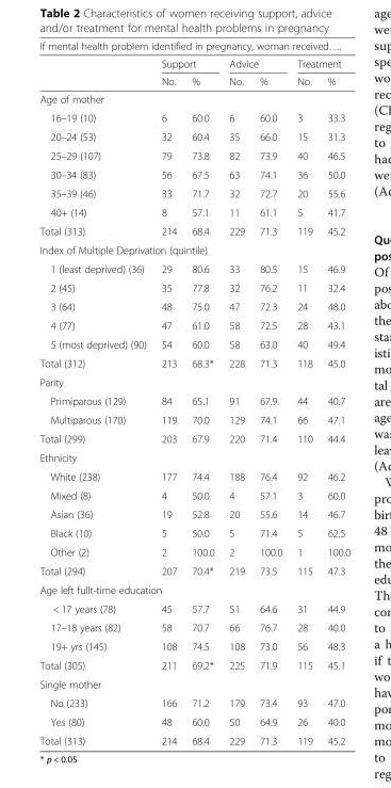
<table><thead><tr><td colspan="7">If mental health problem identified in pregnancy, woman received….</td></tr><tr><td rowspan="2"></td><td colspan="2">Support</td><td colspan="2">Advice</td><td colspan="2">Treatment</td></tr><tr><td>No.</td><td>%</td><td>No.</td><td>%</td><td>No.</td><td>%</td></tr></thead><tbody><tr><td colspan="7">Age of mother</td></tr><tr><td>16–19 (10)</td><td>6</td><td>60.0</td><td>6</td><td>60.0</td><td>3</td><td>33.3</td></tr><tr><td>20–24 (53)</td><td>32</td><td>60.4</td><td>35</td><td>66.0</td><td>15</td><td>31.3</td></tr><tr><td>25–29 (107)</td><td>79</td><td>73.8</td><td>82</td><td>73.9</td><td>40</td><td>46.5</td></tr><tr><td>30–34 (83)</td><td>56</td><td>67.5</td><td>63</td><td>74.1</td><td>36</td><td>50.0</td></tr><tr><td>35–39 (46)</td><td>33</td><td>71.7</td><td>32</td><td>72.7</td><td>20</td><td>55.6</td></tr><tr><td>40+ (14)</td><td>8</td><td>57.1</td><td>11</td><td>61.1</td><td>5</td><td>41.7</td></tr><tr><td>Total (313)</td><td>214</td><td>68.4</td><td>229</td><td>71.3</td><td>119</td><td>45.2</td></tr><tr><td colspan="7">Index of Multiple Deprivation (quintile)</td></tr><tr><td>1 (least deprived) (36)</td><td>29</td><td>80.6</td><td>33</td><td>80.5</td><td>15</td><td>46.9</td></tr><tr><td>2 (45)</td><td>35</td><td>77.8</td><td>32</td><td>76.2</td><td>11</td><td>32.4</td></tr><tr><td>3 (64)</td><td>48</td><td>75.0</td><td>47</td><td>72.3</td><td>24</td><td>48.0</td></tr><tr><td>4 (77)</td><td>47</td><td>61.0</td><td>58</td><td>72.5</td><td>28</td><td>43.1</td></tr><tr><td>5 (most deprived) (90)</td><td>54</td><td>60.0</td><td>58</td><td>63.0</td><td>40</td><td>49.4</td></tr><tr><td>Total (312)</td><td>213</td><td>68.3*</td><td>228</td><td>71.3</td><td>118</td><td>45.0</td></tr><tr><td colspan="7">Parity</td></tr><tr><td>Primiparous (129)</td><td>84</td><td>65.1</td><td>91</td><td>67.9</td><td>44</td><td>40.7</td></tr><tr><td>Multiparous (170)</td><td>119</td><td>70.0</td><td>129</td><td>74.1</td><td>66</td><td>47.1</td></tr><tr><td>Total (299)</td><td>203</td><td>67.9</td><td>220</td><td>71.4</td><td>110</td><td>44.4</td></tr><tr><td colspan="7">Ethnicity</td></tr><tr><td>White (238)</td><td>177</td><td>74.4</td><td>188</td><td>76.4</td><td>92</td><td>46.2</td></tr><tr><td>Mixed (8)</td><td>4</td><td>50.0</td><td>4</td><td>57.1</td><td>3</td><td>60.0</td></tr><tr><td>Asian (36)</td><td>19</td><td>52.8</td><td>20</td><td>55.6</td><td>14</td><td>46.7</td></tr><tr><td>Black (10)</td><td>5</td><td>50.0</td><td>5</td><td>71.4</td><td>5</td><td>62.5</td></tr><tr><td>Other (2)</td><td>2</td><td>100.0</td><td>2</td><td>100.0</td><td>1</td><td>100.0</td></tr><tr><td>Total (294)</td><td>207</td><td>70.4*</td><td>219</td><td>73.5</td><td>115</td><td>47.3</td></tr><tr><td colspan="7">Age left fullt-time education</td></tr><tr><td>&lt; 17 years (78)</td><td>45</td><td>57.7</td><td>51</td><td>64.6</td><td>31</td><td>44.9</td></tr><tr><td>17–18 years (82)</td><td>58</td><td>70.7</td><td>66</td><td>76.7</td><td>28</td><td>40.0</td></tr><tr><td>19+ yrs (145)</td><td>108</td><td>74.5</td><td>108</td><td>73.0</td><td>56</td><td>48.3</td></tr><tr><td>Total (305)</td><td>211</td><td>69.2*</td><td>225</td><td>71.9</td><td>115</td><td>45.1</td></tr><tr><td colspan="7">Single mother</td></tr><tr><td>No (233)</td><td>166</td><td>71.2</td><td>179</td><td>73.4</td><td>93</td><td>47.0</td></tr><tr><td>Yes (80)</td><td>48</td><td>60.0</td><td>50</td><td>64.9</td><td>26</td><td>40.0</td></tr><tr><td>Total (313)</td><td>214</td><td>68.4</td><td>229</td><td>71.3</td><td>119</td><td>45.2</td></tr></tbody></table>